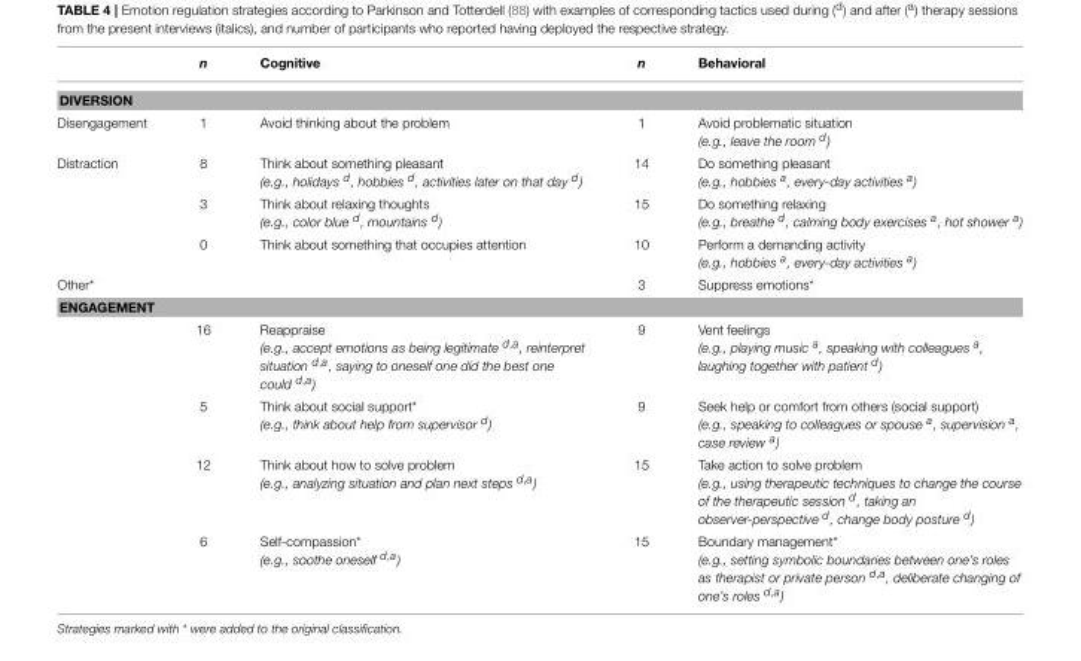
<table><thead><tr><td></td><td>n</td><td>Cognitive</td><td>n</td><td>Behavioral</td></tr></thead><tbody><tr><td colspan="5">DIVERSION</td></tr><tr><td>Disengagement</td><td>1</td><td>Avoid thinking about the problem</td><td>1</td><td>Avoid problematic situation (e.g., leave the room d)</td></tr><tr><td rowspan="3">Distraction</td><td>8</td><td>Think about something pleasant (e.g., holidays d, hobbies d, activities later on that day d)</td><td>14</td><td>Do something pleasant (e.g., hobbies a, every-day activities a)</td></tr><tr><td>3</td><td>Think about relaxing thoughts (e.g., color blue d, mountains d)</td><td>15</td><td>Do something relaxing (e.g., breathe d, calming body exercises a, hot shower a)</td></tr><tr><td>0</td><td>Think about something that occupies attention</td><td>10</td><td>Perform a demanding activity (e.g., hobbies a, every-day activities a)</td></tr><tr><td>Other*</td><td></td><td></td><td>3</td><td>Suppress emotions*</td></tr><tr><td colspan="5">ENGAGEMENT</td></tr><tr><td></td><td>16</td><td>Reappraise (e.g., accept emotions as being legitimate d,a, reinterpret situation d,a, saying to oneself one did the best one could d,a)</td><td>9</td><td>Vent feelings (e.g., playing music a, speaking with colleagues a, laughing together with patient d)</td></tr><tr><td></td><td>5</td><td>Think about social support* (e.g., think about help from supervisor d)</td><td>9</td><td>Seek help or comfort from others (social support) (e.g., speaking to colleagues or spouse a, supervision a, case review a)</td></tr><tr><td></td><td>12</td><td>Think about how to solve problem (e.g., analyzing situation and plan next steps d,a)</td><td>15</td><td>Take action to solve problem (e.g., using therapeutic techniques to change the course of the therapeutic session d, taking an observer-perspective d, change body posture d)</td></tr><tr><td></td><td>6</td><td>Self-compassion* (e.g., soothe oneself d,a)</td><td>15</td><td>Boundary management* (e.g., setting symbolic boundaries between one’s roles as therapist or private person d,a, deliberate changing of one’s roles d,a)</td></tr></tbody></table>